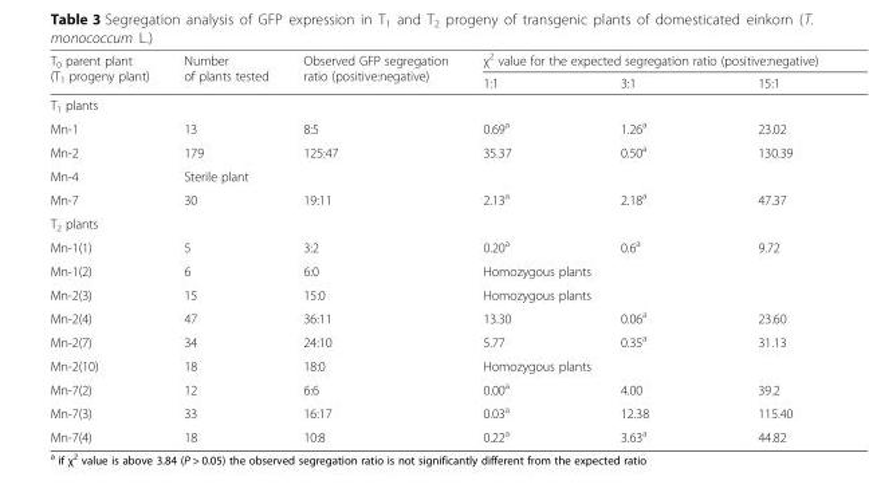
<table><thead><tr><td rowspan="2">T<sub>0</sub> parent plant (T<sub>1</sub> progeny plant)</td><td rowspan="2">Number of plants tested</td><td rowspan="2">Observed GFP segregation ratio (positive:negative)</td><td colspan="3">χ<sup>2</sup> value for the expected segregation ratio (positive:negative)</td></tr><tr><td>1:1</td><td>3:1</td><td>15:1</td></tr></thead><tbody><tr><td colspan="6">T<sub>1</sub> plants</td></tr><tr><td>Mn-1</td><td>13</td><td>8:5</td><td>0.69<sup>a</sup></td><td>1.26<sup>a</sup></td><td>23.02</td></tr><tr><td>Mn-2</td><td>179</td><td>125:47</td><td>35.37</td><td>0.50<sup>a</sup></td><td>130.39</td></tr><tr><td>Mn-4</td><td colspan="5">Sterile plant</td></tr><tr><td>Mn-7</td><td>30</td><td>19:11</td><td>2.13<sup>a</sup></td><td>2.18<sup>a</sup></td><td>47.37</td></tr><tr><td colspan="6">T<sub>2</sub> plants</td></tr><tr><td>Mn-1(1)</td><td>5</td><td>3:2</td><td>0.20<sup>a</sup></td><td>0.6<sup>a</sup></td><td>9.72</td></tr><tr><td>Mn-1(2)</td><td>6</td><td>6:0</td><td colspan="3">Homozygous plants</td></tr><tr><td>Mn-2(3)</td><td>15</td><td>15:0</td><td colspan="3">Homozygous plants</td></tr><tr><td>Mn-2(4)</td><td>47</td><td>36:11</td><td>13.30</td><td>0.06<sup>a</sup></td><td>23.60</td></tr><tr><td>Mn-2(7)</td><td>34</td><td>24:10</td><td>5.77</td><td>0.35<sup>a</sup></td><td>31.13</td></tr><tr><td>Mn-2(10)</td><td>18</td><td>18:0</td><td colspan="3">Homozygous plants</td></tr><tr><td>Mn-7(2)</td><td>12</td><td>6:6</td><td>0.00<sup>a</sup></td><td>4.00</td><td>39.2</td></tr><tr><td>Mn-7(3)</td><td>33</td><td>16:17</td><td>0.03<sup>a</sup></td><td>12.38</td><td>115.40</td></tr><tr><td>Mn-7(4)</td><td>18</td><td>10:8</td><td>0.22<sup>a</sup></td><td>3.63<sup>a</sup></td><td>44.82</td></tr></tbody></table>